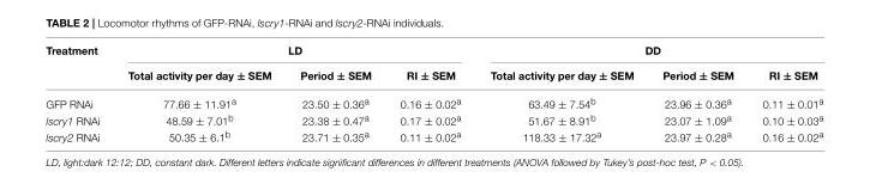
<table><thead><tr><td rowspan="2">Treatment</td><td colspan="3">LD</td><td colspan="3">DD</td></tr><tr><td>Total activity per day ± SEM</td><td>Period ± SEM</td><td>RI ± SEM</td><td>Total activity per day ± SEM</td><td>Period ± SEM</td><td>RI ± SEM</td></tr></thead><tbody><tr><td>GFP RNAi</td><td>77.66 ± 11.91<sup>a</sup></td><td>23.50 ± 0.36<sup>a</sup></td><td>0.16 ± 0.02<sup>a</sup></td><td>63.49 ± 7.54<sup>b</sup></td><td>23.96 ± 0.36<sup>a</sup></td><td>0.11 ± 0.01<sup>a</sup></td></tr><tr><td>lscry1 RNAi</td><td>48.59 ± 7.01<sup>b</sup></td><td>23.38 ± 0.47<sup>a</sup></td><td>0.17 ± 0.02<sup>a</sup></td><td>51.67 ± 8.91<sup>b</sup></td><td>23.07 ± 1.09<sup>a</sup></td><td>0.10 ± 0.03<sup>a</sup></td></tr><tr><td>lscry2 RNAi</td><td>50.35 ± 6.1<sup>b</sup></td><td>23.71 ± 0.35<sup>a</sup></td><td>0.11 ± 0.02<sup>a</sup></td><td>118.33 ± 17.32<sup>a</sup></td><td>23.97 ± 0.28<sup>a</sup></td><td>0.16 ± 0.02<sup>a</sup></td></tr></tbody></table>